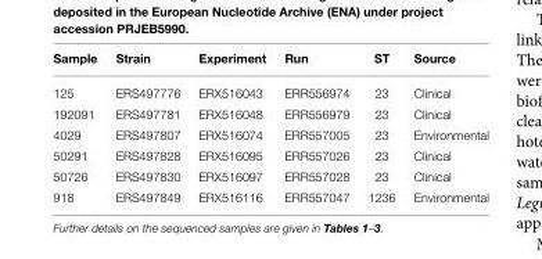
<table><thead><tr><td>Sample</td><td>Strain</td><td>Experiment</td><td>Run</td><td>ST</td><td>Source</td></tr></thead><tbody><tr><td>125</td><td>ERS497776</td><td>ERX516043</td><td>ERR556974</td><td>23</td><td>Clinical</td></tr><tr><td>192091</td><td>ERS497781</td><td>ERX516048</td><td>ERR556979</td><td>23</td><td>Clinical</td></tr><tr><td>4029</td><td>ERS497807</td><td>ERX516074</td><td>ERR557005</td><td>23</td><td>Environmental</td></tr><tr><td>50291</td><td>ERS497828</td><td>ERX516095</td><td>ERR557026</td><td>23</td><td>Clinical</td></tr><tr><td>50726</td><td>ERS497830</td><td>ERX516097</td><td>ERR557028</td><td>23</td><td>Clinical</td></tr><tr><td>918</td><td>ERS497849</td><td>ERX516116</td><td>ERR557047</td><td>1236</td><td>Environmental</td></tr></tbody></table>